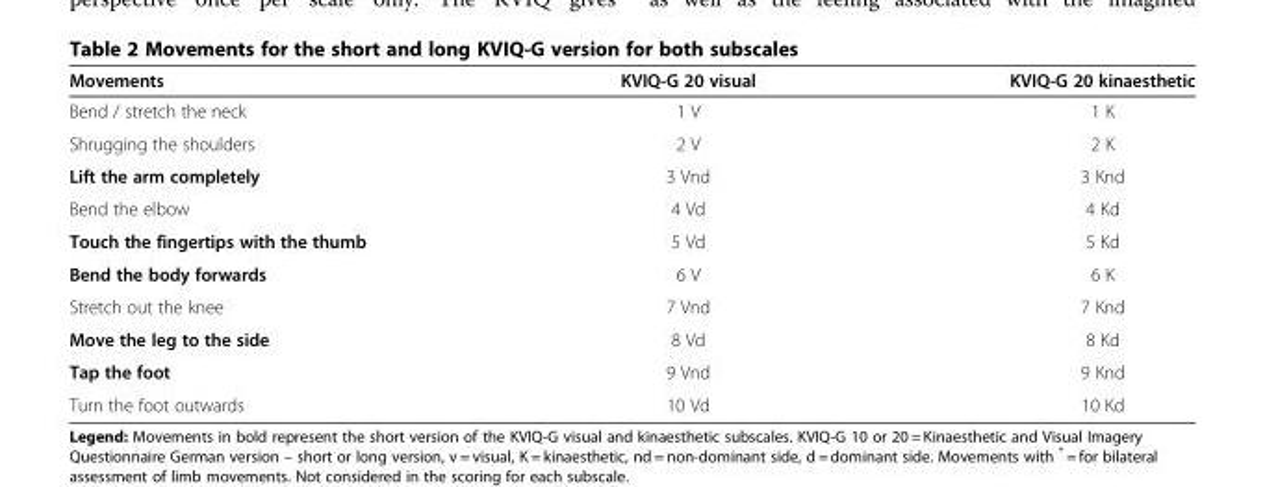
<table><thead><tr><td>Movements</td><td>KVIQ-G 20 visual</td><td>KVIQ-G 20 kinaesthetic</td></tr></thead><tbody><tr><td>Bend / stretch the neck</td><td>1 V</td><td>1 K</td></tr><tr><td>Shrugging the shoulders</td><td>2 V</td><td>2 K</td></tr><tr><td>Lift the arm completely</td><td>3 Vnd</td><td>3 Knd</td></tr><tr><td>Bend the elbow</td><td>4 Vd</td><td>4 Kd</td></tr><tr><td>Touch the fingertips with the thumb</td><td>5 Vd</td><td>5 Kd</td></tr><tr><td>Bend the body forwards</td><td>6 V</td><td>6 K</td></tr><tr><td>Stretch out the knee</td><td>7 Vnd</td><td>7 Knd</td></tr><tr><td>Move the leg to the side</td><td>8 Vd</td><td>8 Kd</td></tr><tr><td>Tap the foot</td><td>9 Vnd</td><td>9 Knd</td></tr><tr><td>Turn the foot outwards</td><td>10 Vd</td><td>10 Kd</td></tr></tbody></table>